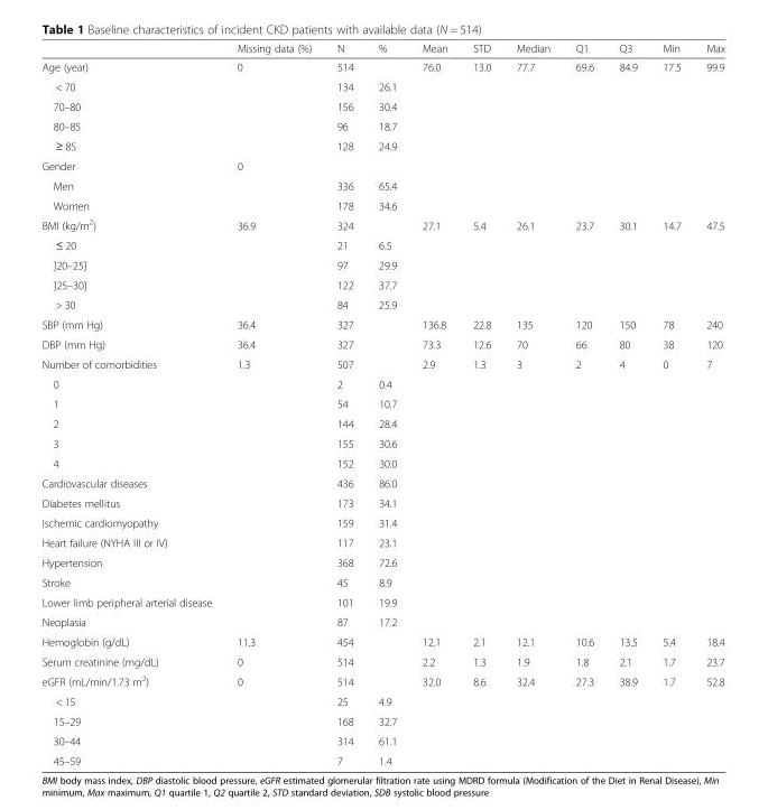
<table><thead><tr><td></td><td>Missing data (%)</td><td>N</td><td>%</td><td>Mean</td><td>STD</td><td>Median</td><td>Q1</td><td>Q3</td><td>Min</td><td>Max</td></tr></thead><tbody><tr><td>Age (year)</td><td>0</td><td>514</td><td></td><td>76.0</td><td>13.0</td><td>77.7</td><td>69.6</td><td>84.9</td><td>17.5</td><td>99.9</td></tr><tr><td>&lt; 70</td><td></td><td>134</td><td>26.1</td><td colspan="7"></td></tr><tr><td>70–80</td><td></td><td>156</td><td>30.4</td><td colspan="7"></td></tr><tr><td>80–85</td><td></td><td>96</td><td>18.7</td><td colspan="7"></td></tr><tr><td>≥ 85</td><td></td><td>128</td><td>24.9</td><td colspan="7"></td></tr><tr><td>Gender</td><td>0</td><td></td><td></td><td colspan="7"></td></tr><tr><td>Men</td><td></td><td>336</td><td>65.4</td><td colspan="7"></td></tr><tr><td>Women</td><td></td><td>178</td><td>34.6</td><td colspan="7"></td></tr><tr><td>BMI (kg/m<sup>2</sup>)</td><td>36.9</td><td>324</td><td></td><td>27.1</td><td>5.4</td><td>26.1</td><td>23.7</td><td>30.1</td><td>14.7</td><td>47.5</td></tr><tr><td>≤ 20</td><td></td><td>21</td><td>6.5</td><td colspan="7"></td></tr><tr><td>]20–25]</td><td></td><td>97</td><td>29.9</td><td colspan="7"></td></tr><tr><td>]25–30]</td><td></td><td>122</td><td>37.7</td><td colspan="7"></td></tr><tr><td>&gt; 30</td><td></td><td>84</td><td>25.9</td><td colspan="7"></td></tr><tr><td>SBP (mm Hg)</td><td>36.4</td><td>327</td><td></td><td>136.8</td><td>22.8</td><td>135</td><td>120</td><td>150</td><td>78</td><td>240</td></tr><tr><td>DBP (mm Hg)</td><td>36.4</td><td>327</td><td></td><td>73.3</td><td>12.6</td><td>70</td><td>66</td><td>80</td><td>38</td><td>120</td></tr><tr><td>Number of comorbidities</td><td>1.3</td><td>507</td><td></td><td>2.9</td><td>1.3</td><td>3</td><td>2</td><td>4</td><td>0</td><td>7</td></tr><tr><td>0</td><td></td><td>2</td><td>0.4</td><td colspan="7"></td></tr><tr><td>1</td><td></td><td>54</td><td>10.7</td><td colspan="7"></td></tr><tr><td>2</td><td></td><td>144</td><td>28.4</td><td colspan="7"></td></tr><tr><td>3</td><td></td><td>155</td><td>30.6</td><td colspan="7"></td></tr><tr><td>4</td><td></td><td>152</td><td>30.0</td><td colspan="7"></td></tr><tr><td>Cardiovascular diseases</td><td></td><td>436</td><td>86.0</td><td colspan="7"></td></tr><tr><td>Diabetes mellitus</td><td></td><td>173</td><td>34.1</td><td colspan="7"></td></tr><tr><td>Ischemic cardiomyopathy</td><td></td><td>159</td><td>31.4</td><td colspan="7"></td></tr><tr><td>Heart failure (NYHA III or IV)</td><td></td><td>117</td><td>23.1</td><td colspan="7"></td></tr><tr><td>Hypertension</td><td></td><td>368</td><td>72.6</td><td colspan="7"></td></tr><tr><td>Stroke</td><td></td><td>45</td><td>8.9</td><td colspan="7"></td></tr><tr><td>Lower limb peripheral arterial disease</td><td></td><td>101</td><td>19.9</td><td colspan="7"></td></tr><tr><td>Neoplasia</td><td></td><td>87</td><td>17.2</td><td colspan="7"></td></tr><tr><td>Hemoglobin (g/dL)</td><td>11.3</td><td>454</td><td></td><td>12.1</td><td>2.1</td><td>12.1</td><td>10.6</td><td>13.5</td><td>5.4</td><td>18.4</td></tr><tr><td>Serum creatinine (mg/dL)</td><td>0</td><td>514</td><td></td><td>2.2</td><td>1.3</td><td>1.9</td><td>1.8</td><td>2.1</td><td>1.7</td><td>23.7</td></tr><tr><td>eGFR (mL/min/1.73 m<sup>2</sup>)</td><td>0</td><td>514</td><td></td><td>32.0</td><td>8.6</td><td>32.4</td><td>27.3</td><td>38.9</td><td>1.7</td><td>52.8</td></tr><tr><td>&lt; 15</td><td></td><td>25</td><td>4.9</td><td colspan="7"></td></tr><tr><td>15–29</td><td></td><td>168</td><td>32.7</td><td colspan="7"></td></tr><tr><td>30–44</td><td></td><td>314</td><td>61.1</td><td colspan="7"></td></tr><tr><td>45–59</td><td></td><td>7</td><td>1.4</td><td colspan="7"></td></tr></tbody></table>